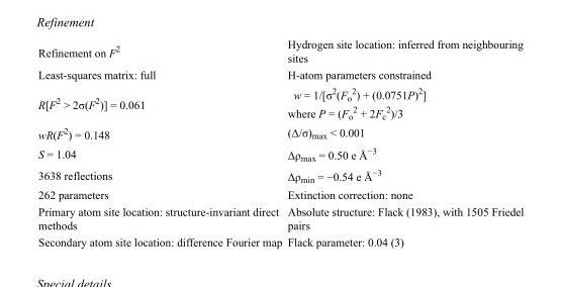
<table><tbody><tr><td>Refinement on F<sup>2</sup></td><td>Hydrogen site location: inferred from neighbouring sites</td></tr><tr><td>Least-squares matrix: full</td><td>H-atom parameters constrained</td></tr><tr><td>R[F<sup>2</sup> &gt; 2σ(F<sup>2</sup>)] = 0.061</td><td>w = 1/[σ<sup>2</sup>(F<sub>o</sub> <sup>2</sup>) + (0.0751P)<sup>2</sup>] where P = (F<sub>o</sub> <sup>2</sup> + 2F<sub>c</sub> <sup>2</sup>)/3</td></tr><tr><td>wR(F<sup>2</sup>) = 0.148</td><td>(Δ/σ)<sub>max</sub> &lt; 0.001</td></tr><tr><td>S = 1.04</td><td>Δρ<sub>max</sub> = 0.50 e Å<sup>−3</sup></td></tr><tr><td>3638 reflections</td><td>Δρ<sub>min</sub> = −0.54 e Å<sup>−3</sup></td></tr><tr><td>262 parameters</td><td>Extinction correction: none</td></tr><tr><td>Primary atom site location: structure-invariant direct methods</td><td>Absolute structure: Flack (1983), with 1505 Friedel pairs</td></tr><tr><td>Secondary atom site location: difference Fourier map</td><td>Flack parameter: 0.04 (3)</td></tr></tbody></table>